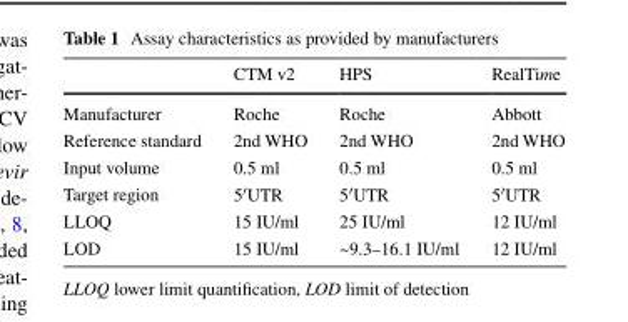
<table><thead><tr><td></td><td>CTM v2</td><td>HPS</td><td>RealTime</td></tr></thead><tbody><tr><td>Manufacturer</td><td>Roche</td><td>Roche</td><td>Abbott</td></tr><tr><td>Reference standard</td><td>2nd WHO</td><td>2nd WHO</td><td>2nd WHO</td></tr><tr><td>Input volume</td><td>0.5 ml</td><td>0.5 ml</td><td>0.5 ml</td></tr><tr><td>Target region</td><td>5′UTR</td><td>5′UTR</td><td>5′UTR</td></tr><tr><td>LLOQ</td><td>15 IU/ml</td><td>25 IU/ml</td><td>12 IU/ml</td></tr><tr><td>LOD</td><td>15 IU/ml</td><td>~9.3–16.1 IU/ml</td><td>12 IU/ml</td></tr></tbody></table>